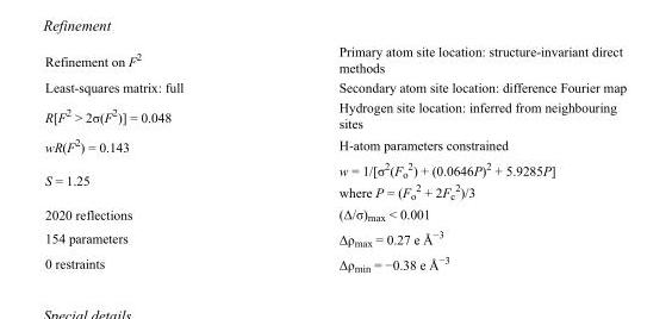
<table><tbody><tr><td>Refinement on F<sup>2</sup></td><td>Primary atom site location: structure-invariant direct methods</td></tr><tr><td>Least-squares matrix: full</td><td>Secondary atom site location: difference Fourier map</td></tr><tr><td>R[F<sup>2</sup> &gt; 2σ(F<sup>2</sup>)] = 0.048</td><td>Hydrogen site location: inferred from neighbouring sites</td></tr><tr><td>wR(F<sup>2</sup>) = 0.143</td><td>H-atom parameters constrained</td></tr><tr><td>S = 1.25</td><td>w = 1/[σ<sup>2</sup>(F<sub>o</sub> <sup>2</sup>) + (0.0646P)<sup>2</sup> + 5.9285P] where P = (F<sub>o</sub> <sup>2</sup> + 2F<sub>c</sub> <sup>2</sup>)/3</td></tr><tr><td>2020 reflections</td><td>(Δ/σ)<sub>max</sub> &lt; 0.001</td></tr><tr><td>154 parameters</td><td>Δρ<sub>max</sub> = 0.27 e Å<sup>−3</sup></td></tr><tr><td>0 restraints</td><td>Δρ<sub>min</sub> = −0.38 e Å<sup>−3</sup></td></tr></tbody></table>